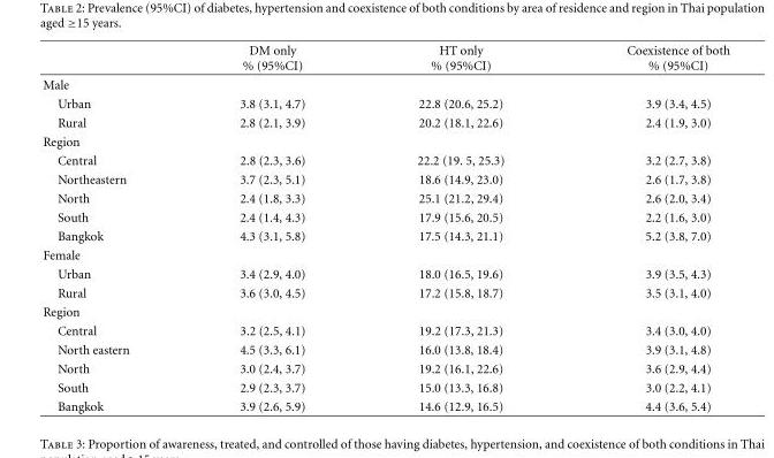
<table><thead><tr><td></td><td>DM only % (95%CI)</td><td>HT only % (95%CI)</td><td>Coexistence of both % (95%CI)</td></tr></thead><tbody><tr><td colspan="4">Male</td></tr><tr><td>Urban</td><td>3.8 (3.1, 4.7)</td><td>22.8 (20.6, 25.2)</td><td>3.9 (3.4, 4.5)</td></tr><tr><td>Rural</td><td>2.8 (2.1, 3.9)</td><td>20.2 (18.1, 22.6)</td><td>2.4 (1.9, 3.0)</td></tr><tr><td colspan="4">Region</td></tr><tr><td>Central</td><td>2.8 (2.3, 3.6)</td><td>22.2 (19. 5, 25.3)</td><td>3.2 (2.7, 3.8)</td></tr><tr><td>Northeastern</td><td>3.7 (2.3, 5.1)</td><td>18.6 (14.9, 23.0)</td><td>2.6 (1.7, 3.8)</td></tr><tr><td>North</td><td>2.4 (1.8, 3.3)</td><td>25.1 (21.2, 29.4)</td><td>2.6 (2.0, 3.4)</td></tr><tr><td>South</td><td>2.4 (1.4, 4.3)</td><td>17.9 (15.6, 20.5)</td><td>2.2 (1.6, 3.0)</td></tr><tr><td>Bangkok</td><td>4.3 (3.1, 5.8)</td><td>17.5 (14.3, 21.1)</td><td>5.2 (3.8, 7.0)</td></tr><tr><td colspan="4">Female</td></tr><tr><td>Urban</td><td>3.4 (2.9, 4.0)</td><td>18.0 (16.5, 19.6)</td><td>3.9 (3.5, 4.3)</td></tr><tr><td>Rural</td><td>3.6 (3.0, 4.5)</td><td>17.2 (15.8, 18.7)</td><td>3.5 (3.1, 4.0)</td></tr><tr><td colspan="4">Region</td></tr><tr><td>Central</td><td>3.2 (2.5, 4.1)</td><td>19.2 (17.3, 21.3)</td><td>3.4 (3.0, 4.0)</td></tr><tr><td>North eastern</td><td>4.5 (3.3, 6.1)</td><td>16.0 (13.8, 18.4)</td><td>3.9 (3.1, 4.8)</td></tr><tr><td>North</td><td>3.0 (2.4, 3.7)</td><td>19.2 (16.1, 22.6)</td><td>3.6 (2.9, 4.4)</td></tr><tr><td>South</td><td>2.9 (2.3, 3.7)</td><td>15.0 (13.3, 16.8)</td><td>3.0 (2.2, 4.1)</td></tr><tr><td>Bangkok</td><td>3.9 (2.6, 5.9)</td><td>14.6 (12.9, 16.5)</td><td>4.4 (3.6, 5.4)</td></tr></tbody></table>